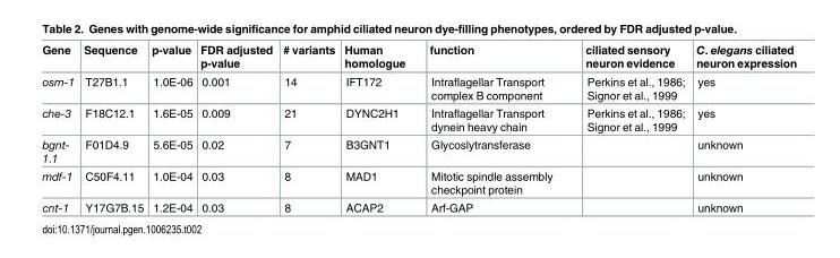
<table><thead><tr><td>Gene</td><td>Sequence</td><td>p-value</td><td>FDR adjusted p-value</td><td># variants</td><td>Human homologue</td><td>function</td><td>ciliated sensory neuron evidence</td><td>C. elegans ciliated neuron expression</td></tr></thead><tbody><tr><td>osm-1</td><td>T27B1.1</td><td>1.0E-06</td><td>0.001</td><td>14</td><td>IFT172</td><td>Intraflagellar Transport complex B component</td><td>Perkins et al., 1986; Signor et al., 1999</td><td>yes</td></tr><tr><td>che-3</td><td>F18C12.1</td><td>1.6E-05</td><td>0.009</td><td>21</td><td>DYNC2H1</td><td>Intraflagellar Transport dynein heavy chain</td><td>Perkins et al., 1986; Signor et al., 1999</td><td>yes</td></tr><tr><td>bgnt- 1.1</td><td>F01D4.9</td><td>5.6E-05</td><td>0.02</td><td>7</td><td>B3GNT1</td><td>Glycoslytransferase</td><td></td><td>unknown</td></tr><tr><td>mdf-1</td><td>C50F4.11</td><td>1.0E-04</td><td>0.03</td><td>8</td><td>MAD1</td><td>Mitotic spindle assembly checkpoint protein</td><td></td><td>unknown</td></tr><tr><td>cnt-1</td><td>Y17G7B.15</td><td>1.2E-04</td><td>0.03</td><td>8</td><td>ACAP2</td><td>Arf-GAP</td><td></td><td>unknown</td></tr></tbody></table>